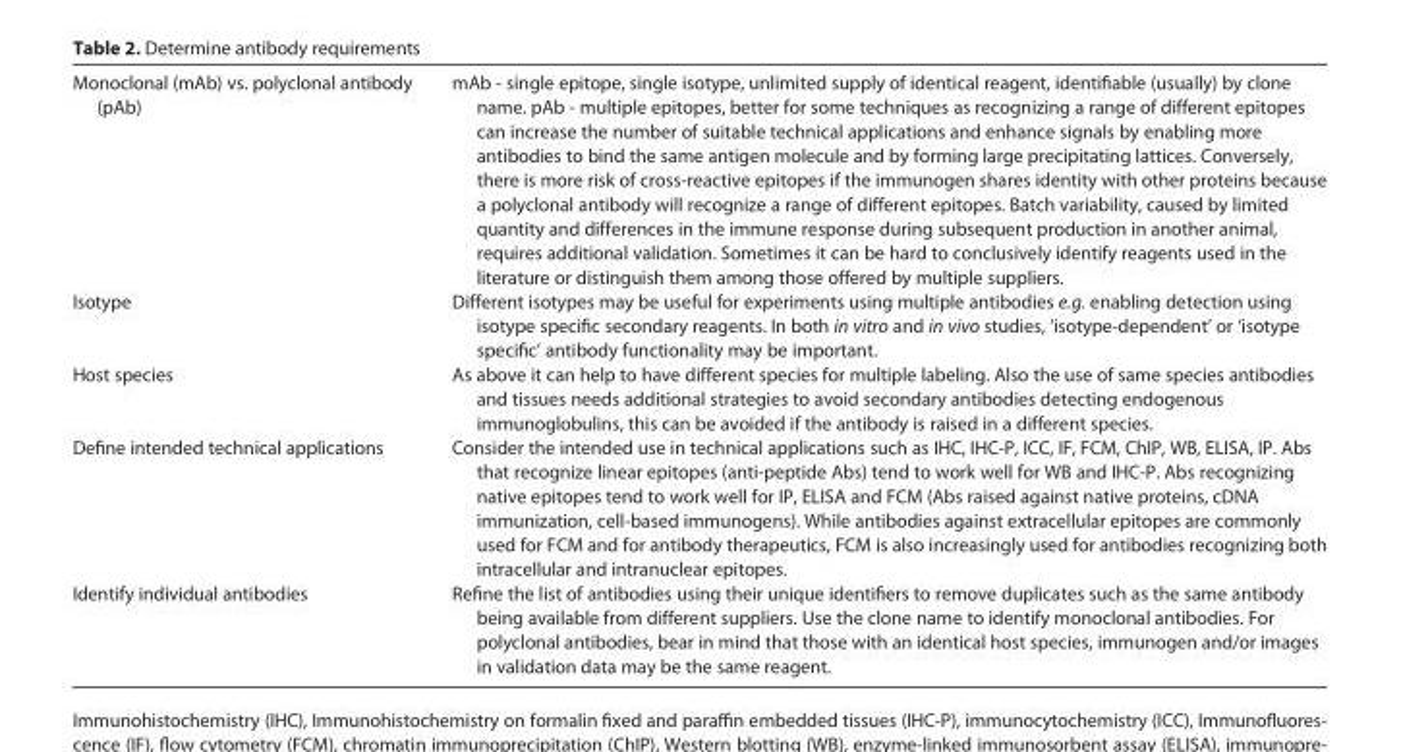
<table><tbody><tr><td>Monoclonal (mAb) vs. polyclonal antibody (pAb)</td><td>mAb - single epitope, single isotype, unlimited supply of identical reagent, identifiable (usually) by clone name. pAb - multiple epitopes, better for some techniques as recognizing a range of different epitopes can increase the number of suitable technical applications and enhance signals by enabling more antibodies to bind the same antigen molecule and by forming large precipitating lattices. Conversely, there is more risk of cross-reactive epitopes if the immunogen shares identity with other proteins because a polyclonal antibody will recognize a range of different epitopes. Batch variability, caused by limited quantity and differences in the immune response during subsequent production in another animal, requires additional validation. Sometimes it can be hard to conclusively identify reagents used in the literature or distinguish them among those offered by multiple suppliers.</td></tr><tr><td>Isotype</td><td>Different isotypes may be useful for experiments using multiple antibodies e.g. enabling detection using isotype specific secondary reagents. In both in vitro and in vivo studies, ‘isotype-dependent’ or ‘isotype specific’ antibody functionality may be important.</td></tr><tr><td>Host species</td><td>As above it can help to have different species for multiple labeling. Also the use of same species antibodies and tissues needs additional strategies to avoid secondary antibodies detecting endogenous immunoglobulins, this can be avoided if the antibody is raised in a different species.</td></tr><tr><td>Define intended technical applications</td><td>Consider the intended use in technical applications such as IHC, IHC-P, ICC, IF, FCM, ChIP, WB, ELISA, IP. Abs that recognize linear epitopes (anti-peptide Abs) tend to work well for WB and IHC-P. Abs recognizing native epitopes tend to work well for IP, ELISA and FCM (Abs raised against native proteins, cDNA immunization, cell-based immunogens). While antibodies against extracellular epitopes are commonly used for FCM and for antibody therapeutics, FCM is also increasingly used for antibodies recognizing both intracellular and intranuclear epitopes.</td></tr><tr><td>Identify individual antibodies</td><td>Refine the list of antibodies using their unique identifiers to remove duplicates such as the same antibody being available from different suppliers. Use the clone name to identify monoclonal antibodies. For polyclonal antibodies, bear in mind that those with an identical host species, immunogen and/or images in validation data may be the same reagent.</td></tr></tbody></table>